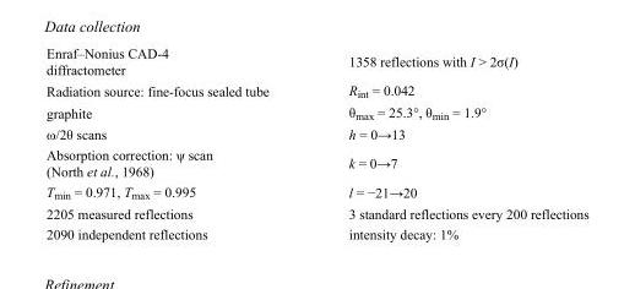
<table><tbody><tr><td>Enraf–Nonius CAD-4 diffractometer</td><td>1358 reflections with I &gt; 2σ(I)</td></tr><tr><td>Radiation source: fine-focus sealed tube</td><td>R<sub>int</sub> = 0.042</td></tr><tr><td>graphite</td><td>θ<sub>max</sub> = 25.3°, θ<sub>min</sub> = 1.9°</td></tr><tr><td>ω/2θ scans</td><td>h = 0→13</td></tr><tr><td>Absorption correction: ψ scan (North et al., 1968)</td><td>k = 0→7</td></tr><tr><td>T<sub>min</sub> = 0.971, T<sub>max</sub> = 0.995</td><td>l = −21→20</td></tr><tr><td>2205 measured reflections</td><td>3 standard reflections every 200 reflections</td></tr><tr><td>2090 independent reflections</td><td>intensity decay: 1%</td></tr></tbody></table>